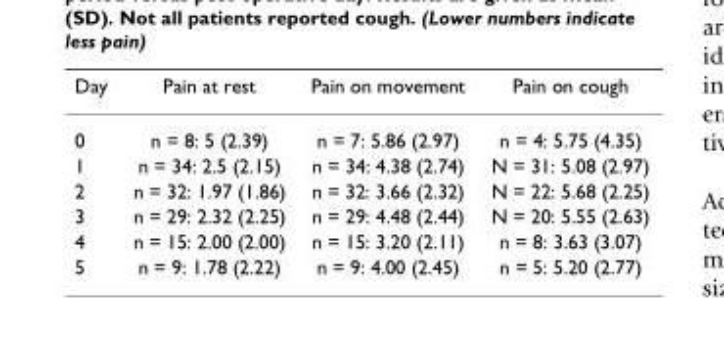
<table><thead><tr><td>Day</td><td>Pain at rest</td><td>Pain on movement</td><td>Pain on cough</td></tr></thead><tbody><tr><td>0</td><td>n = 8: 5 (2.39)</td><td>n = 7: 5.86 (2.97)</td><td>n = 4: 5.75 (4.35)</td></tr><tr><td>1</td><td>n = 34: 2.5 (2.15)</td><td>n = 34: 4.38 (2.74)</td><td>N = 31: 5.08 (2.97)</td></tr><tr><td>2</td><td>n = 32: 1.97 (1.86)</td><td>n = 32: 3.66 (2.32)</td><td>N = 22: 5.68 (2.25)</td></tr><tr><td>3</td><td>n = 29: 2.32 (2.25)</td><td>n = 29: 4.48 (2.44)</td><td>N = 20: 5.55 (2.63)</td></tr><tr><td>4</td><td>n = 15: 2.00 (2.00)</td><td>n = 15: 3.20 (2.11)</td><td>n = 8: 3.63 (3.07)</td></tr><tr><td>5</td><td>n = 9: 1.78 (2.22)</td><td>n = 9: 4.00 (2.45)</td><td>n = 5: 5.20 (2.77)</td></tr></tbody></table>